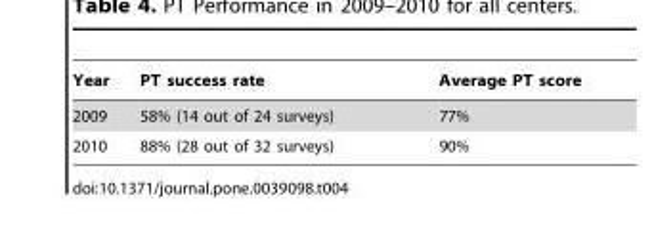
<table><thead><tr><td>Year</td><td>PT success rate</td><td>Average PT score</td></tr></thead><tbody><tr><td>2009</td><td>58% (14 out of 24 surveys)</td><td>77%</td></tr><tr><td>2010</td><td>88% (28 out of 32 surveys)</td><td>90%</td></tr></tbody></table>